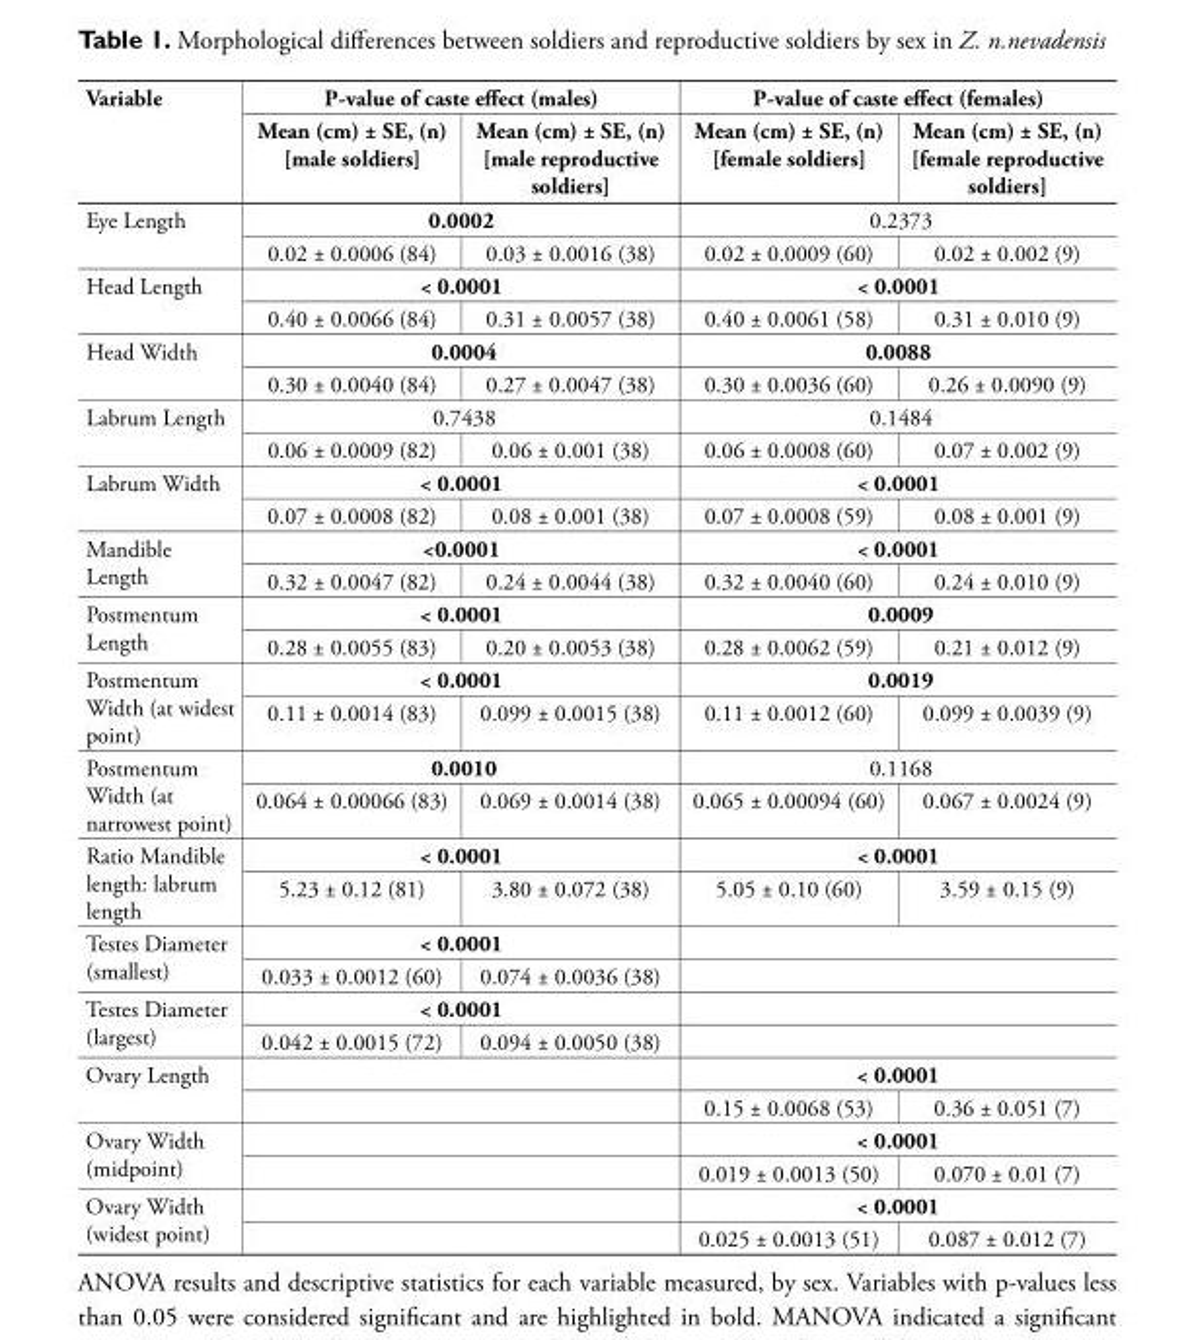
<table><thead><tr><td rowspan="2">Variable</td><td colspan="2">P-value of caste effect (males)</td><td colspan="2">P-value of caste effect (females)</td></tr><tr><td>Mean (cm) ± SE, (n) [male soldiers]</td><td>Mean (cm) ± SE, (n) [male reproductive soldiers]</td><td>Mean (cm) ± SE, (n) [female soldiers]</td><td>Mean (cm) ± SE, (n) [female reproductive soldiers]</td></tr></thead><tbody><tr><td rowspan="2">Eye Length</td><td colspan="2">0.0002</td><td colspan="2">0.2373</td></tr><tr><td>0.02 ± 0.0006 (84)</td><td>0.03 ± 0.0016 (38)</td><td>0.02 ± 0.0009 (60)</td><td>0.02 ± 0.002 (9)</td></tr><tr><td rowspan="2">Head Length</td><td colspan="2">&lt; 0.0001</td><td colspan="2">&lt; 0.0001</td></tr><tr><td>0.40 ± 0.0066 (84)</td><td>0.31 ± 0.0057 (38)</td><td>0.40 ± 0.0061 (58)</td><td>0.31 ± 0.010 (9)</td></tr><tr><td rowspan="2">Head Width</td><td colspan="2">0.0004</td><td colspan="2">0.0088</td></tr><tr><td>0.30 ± 0.0040 (84)</td><td>0.27 ± 0.0047 (38)</td><td>0.30 ± 0.0036 (60)</td><td>0.26 ± 0.0090 (9)</td></tr><tr><td rowspan="2">Labrum Length</td><td colspan="2">0.7438</td><td colspan="2">0.1484</td></tr><tr><td>0.06 ± 0.0009 (82)</td><td>0.06 ± 0.001 (38)</td><td>0.06 ± 0.0008 (60)</td><td>0.07 ± 0.002 (9)</td></tr><tr><td rowspan="2">Labrum Width</td><td colspan="2">&lt; 0.0001</td><td colspan="2">&lt; 0.0001</td></tr><tr><td>0.07 ± 0.0008 (82)</td><td>0.08 ± 0.001 (38)</td><td>0.07 ± 0.0008 (59)</td><td>0.08 ± 0.001 (9)</td></tr><tr><td rowspan="2">Mandible Length</td><td colspan="2">&lt;0.0001</td><td colspan="2">&lt; 0.0001</td></tr><tr><td>0.32 ± 0.0047 (82)</td><td>0.24 ± 0.0044 (38)</td><td>0.32 ± 0.0040 (60)</td><td>0.24 ± 0.010 (9)</td></tr><tr><td rowspan="2">Postmentum Length</td><td colspan="2">&lt; 0.0001</td><td colspan="2">0.0009</td></tr><tr><td>0.28 ± 0.0055 (83)</td><td>0.20 ± 0.0053 (38)</td><td>0.28 ± 0.0062 (59)</td><td>0.21 ± 0.012 (9)</td></tr><tr><td rowspan="2">Postmentum Width (at widest point)</td><td colspan="2">&lt; 0.0001</td><td colspan="2">0.0019</td></tr><tr><td>0.11 ± 0.0014 (83)</td><td>0.099 ± 0.0015 (38)</td><td>0.11 ± 0.0012 (60)</td><td>0.099 ± 0.0039 (9)</td></tr><tr><td rowspan="2">Postmentum Width (at narrowest point)</td><td colspan="2">0.0010</td><td colspan="2">0.1168</td></tr><tr><td>0.064 ± 0.00066 (83)</td><td>0.069 ± 0.0014 (38)</td><td>0.065 ± 0.00094 (60)</td><td>0.067 ± 0.0024 (9)</td></tr><tr><td rowspan="2">Ratio Mandible length: labrum length</td><td colspan="2">&lt; 0.0001</td><td colspan="2">&lt; 0.0001</td></tr><tr><td>5.23 ± 0.12 (81)</td><td>3.80 ± 0.072 (38)</td><td>5.05 ± 0.10 (60)</td><td>3.59 ± 0.15 (9)</td></tr><tr><td rowspan="2">Testes Diameter (smallest)</td><td colspan="2">&lt; 0.0001</td><td colspan="2"></td></tr><tr><td>0.033 ± 0.0012 (60)</td><td>0.074 ± 0.0036 (38)</td><td colspan="2"></td></tr><tr><td rowspan="2">Testes Diameter (largest)</td><td colspan="2">&lt; 0.0001</td><td colspan="2"></td></tr><tr><td>0.042 ± 0.0015 (72)</td><td>0.094 ± 0.0050 (38)</td><td colspan="2"></td></tr><tr><td rowspan="2">Ovary Length</td><td colspan="2"></td><td colspan="2">&lt; 0.0001</td></tr><tr><td colspan="2"></td><td>0.15 ± 0.0068 (53)</td><td>0.36 ± 0.051 (7)</td></tr><tr><td rowspan="2">Ovary Width (midpoint)</td><td colspan="2"></td><td colspan="2">&lt; 0.0001</td></tr><tr><td colspan="2"></td><td>0.019 ± 0.0013 (50)</td><td>0.070 ± 0.01 (7)</td></tr><tr><td rowspan="2">Ovary Width (widest point)</td><td colspan="2"></td><td colspan="2">&lt; 0.0001</td></tr><tr><td colspan="2"></td><td>0.025 ± 0.0013 (51)</td><td>0.087 ± 0.012 (7)</td></tr></tbody></table>